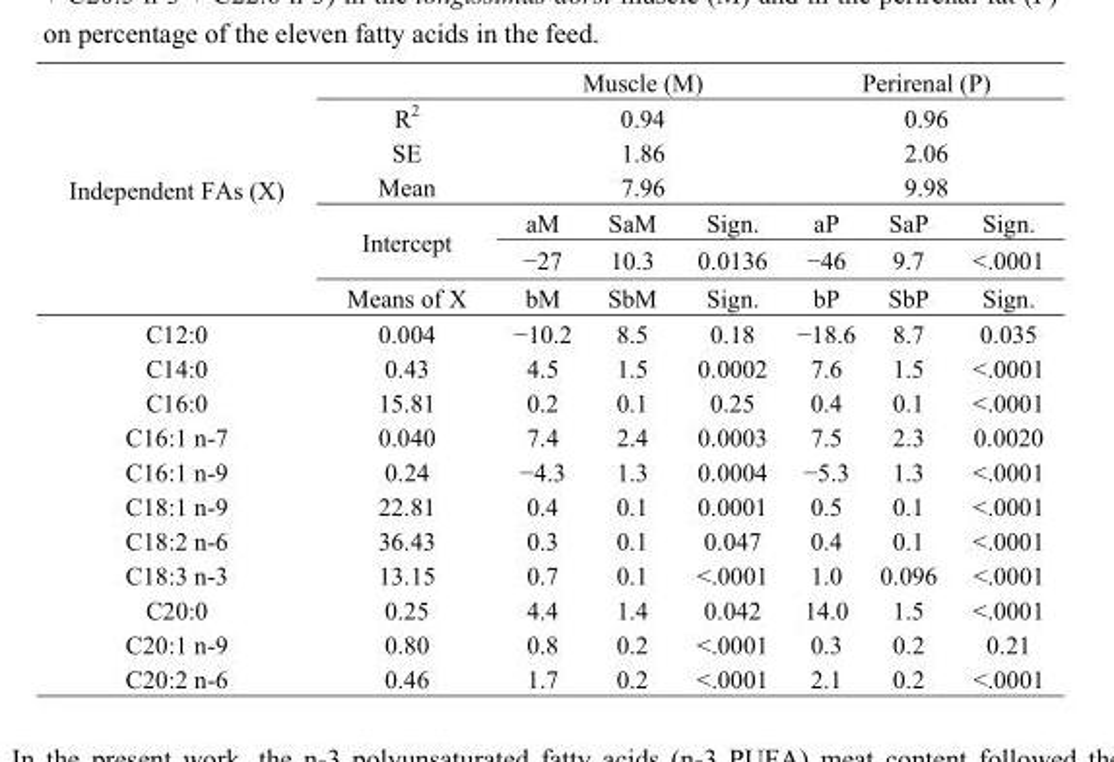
<table><thead><tr><td rowspan="7">Independent FAs (X)</td><td rowspan="7">R2 SE Mean Intercept Means of X</td><td rowspan="4" colspan="3">Muscle (M) 0.94 1.86 7.96</td><td rowspan="4" colspan="3">Perirenal (P) 0.96 2.06 9.98</td></tr><tr></tr><tr></tr><tr></tr><tr><td rowspan="3">aM −27 bM</td><td rowspan="3">SaM 10.3 SbM</td><td rowspan="3">Sign. 0.0136 Sign.</td><td rowspan="3">aP −46 bP</td><td rowspan="3">SaP 9.7 SbP</td><td rowspan="3">Sign. &lt;.0001 Sign.</td></tr><tr></tr><tr></tr></thead><tbody><tr><td>C12:0</td><td>0.004</td><td>−10.2</td><td>8.5</td><td>0.18</td><td>−18.6</td><td>8.7</td><td>0.035</td></tr><tr><td>C14:0</td><td>0.43</td><td>4.5</td><td>1.5</td><td>0.0002</td><td>7.6</td><td>1.5</td><td>&lt;.0001</td></tr><tr><td>C16:0</td><td>15.81</td><td>0.2</td><td>0.1</td><td>0.25</td><td>0.4</td><td>0.1</td><td>&lt;.0001</td></tr><tr><td>C16:1 n-7</td><td>0.040</td><td>7.4</td><td>2.4</td><td>0.0003</td><td>7.5</td><td>2.3</td><td>0.0020</td></tr><tr><td>C16:1 n-9</td><td>0.24</td><td>−4.3</td><td>1.3</td><td>0.0004</td><td>−5.3</td><td>1.3</td><td>&lt;.0001</td></tr><tr><td>C18:1 n-9</td><td>22.81</td><td>0.4</td><td>0.1</td><td>0.0001</td><td>0.5</td><td>0.1</td><td>&lt;.0001</td></tr><tr><td>C18:2 n-6</td><td>36.43</td><td>0.3</td><td>0.1</td><td>0.047</td><td>0.4</td><td>0.1</td><td>&lt;.0001</td></tr><tr><td>C18:3 n-3</td><td>13.15</td><td>0.7</td><td>0.1</td><td>&lt;.0001</td><td>1.0</td><td>0.096</td><td>&lt;.0001</td></tr><tr><td>C20:0</td><td>0.25</td><td>4.4</td><td>1.4</td><td>0.042</td><td>14.0</td><td>1.5</td><td>&lt;.0001</td></tr><tr><td>C20:1 n-9</td><td>0.80</td><td>0.8</td><td>0.2</td><td>&lt;.0001</td><td>0.3</td><td>0.2</td><td>0.21</td></tr><tr><td>C20:2 n-6</td><td>0.46</td><td>1.7</td><td>0.2</td><td>&lt;.0001</td><td>2.1</td><td>0.2</td><td>&lt;.0001</td></tr></tbody></table>